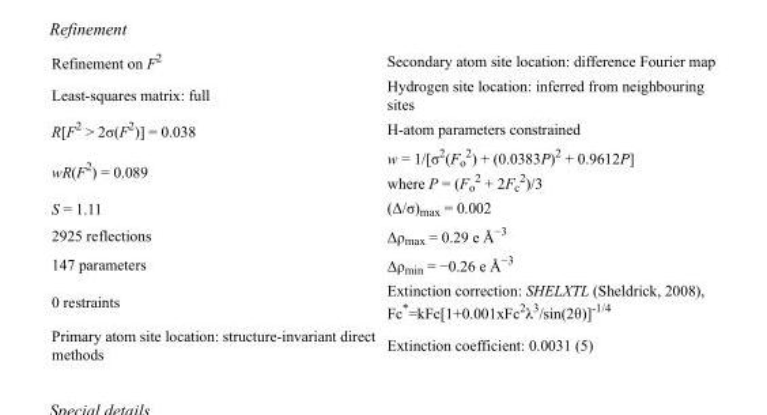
<table><tbody><tr><td>Refinement on F<sup>2</sup></td><td>Secondary atom site location: difference Fourier map</td></tr><tr><td>Least-squares matrix: full</td><td>Hydrogen site location: inferred from neighbouring sites</td></tr><tr><td>R[F<sup>2</sup> &gt; 2σ(F<sup>2</sup>)] = 0.038</td><td>H-atom parameters constrained</td></tr><tr><td>wR(F<sup>2</sup>) = 0.089</td><td>w = 1/[σ<sup>2</sup>(F<sub>o</sub> <sup>2</sup>) + (0.0383P)<sup>2</sup> + 0.9612P] where P = (F<sub>o</sub> <sup>2</sup> + 2F<sub>c</sub> <sup>2</sup>)/3</td></tr><tr><td>S = 1.11</td><td>(Δ/σ)<sub>max</sub> = 0.002</td></tr><tr><td>2925 reflections</td><td>Δρ<sub>max</sub> = 0.29 e Å<sup>−3</sup></td></tr><tr><td>147 parameters</td><td>Δρ<sub>min</sub> = −0.26 e Å<sup>−3</sup></td></tr><tr><td>0 restraints</td><td>Extinction correction: SHELXTL (Sheldrick, 2008), Fc*=kFc[1+0.001xFc<sup>2</sup>λ<sup>3</sup>/sin(2θ)]<sup>-1/4</sup></td></tr><tr><td>Primary atom site location: structure-invariant direct methods</td><td>Extinction coefficient: 0.0031 (5)</td></tr></tbody></table>